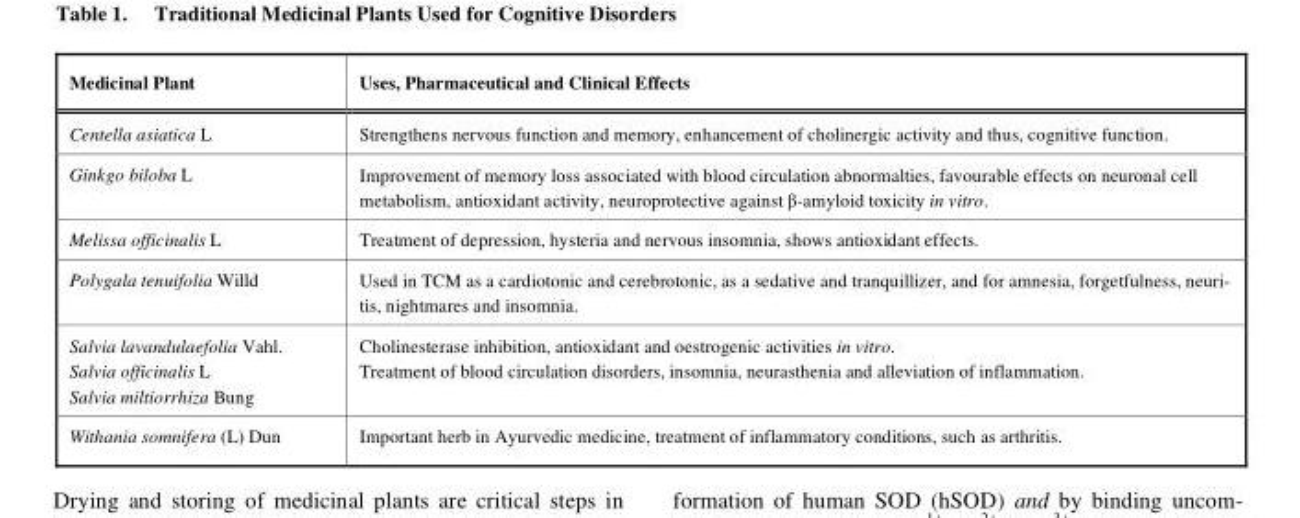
<table><thead><tr><td>Medicinal Plant</td><td>Uses, Pharmaceutical and Clinical Effects</td></tr></thead><tbody><tr><td>Centella asiatica L</td><td>Strengthens nervous function and memory, enhancement of cholinergic activity and thus, cognitive function.</td></tr><tr><td>Ginkgo biloba L</td><td>Improvement of memory loss associated with blood circulation abnormalties, favourable effects on neuronal cell metabolism, antioxidant activity, neuroprotective against β-amyloid toxicity in vitro.</td></tr><tr><td>Melissa officinalis L</td><td>Treatment of depression, hysteria and nervous insomnia, shows antioxidant effects.</td></tr><tr><td>Polygala tenuifolia Willd</td><td>Used in TCM as a cardiotonic and cerebrotonic, as a sedative and tranquillizer, and for amnesia, forgetfulness, neuri- tis, nightmares and insomnia.</td></tr><tr><td>Salvia lavandulaefolia Vahl. Salvia officinalis L Salvia miltiorrhiza Bung</td><td>Cholinesterase inhibition, antioxidant and oestrogenic activities in vitro. Treatment of blood circulation disorders, insomnia, neurasthenia and alleviation of inflammation.</td></tr><tr><td>Withania somnifera (L) Dun</td><td>Important herb in Ayurvedic medicine, treatment of inflammatory conditions, such as arthritis.</td></tr></tbody></table>